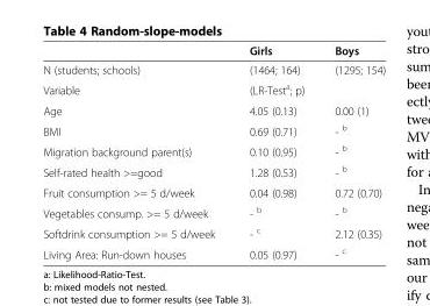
<table><thead><tr><td></td><td>Girls</td><td>Boys</td></tr></thead><tbody><tr><td>N (students; schools)</td><td>(1464; 164)</td><td>(1295; 154)</td></tr><tr><td>Variable</td><td colspan="2">(LR-Test<sup>a</sup>; p)</td></tr><tr><td>Age</td><td>4.05 (0.13)</td><td>0.00 (1)</td></tr><tr><td>BMI</td><td>0.69 (0.71)</td><td>- <sup>b</sup></td></tr><tr><td>Migration background parent(s)</td><td>0.10 (0.95)</td><td>- <sup>b</sup></td></tr><tr><td>Self-rated health &gt;=good</td><td>1.28 (0.53)</td><td>- <sup>b</sup></td></tr><tr><td>Fruit consumption &gt;= 5 d/week</td><td>0.04 (0.98)</td><td>0.72 (0.70)</td></tr><tr><td>Vegetables consump. &gt;= 5 d/week</td><td>- <sup>b</sup></td><td>- <sup>b</sup></td></tr><tr><td>Softdrink consumption &gt;= 5 d/week</td><td>- <sup>c</sup></td><td>2.12 (0.35)</td></tr><tr><td>Living Area: Run-down houses</td><td>0.05 (0.97)</td><td>- <sup>c</sup></td></tr></tbody></table>